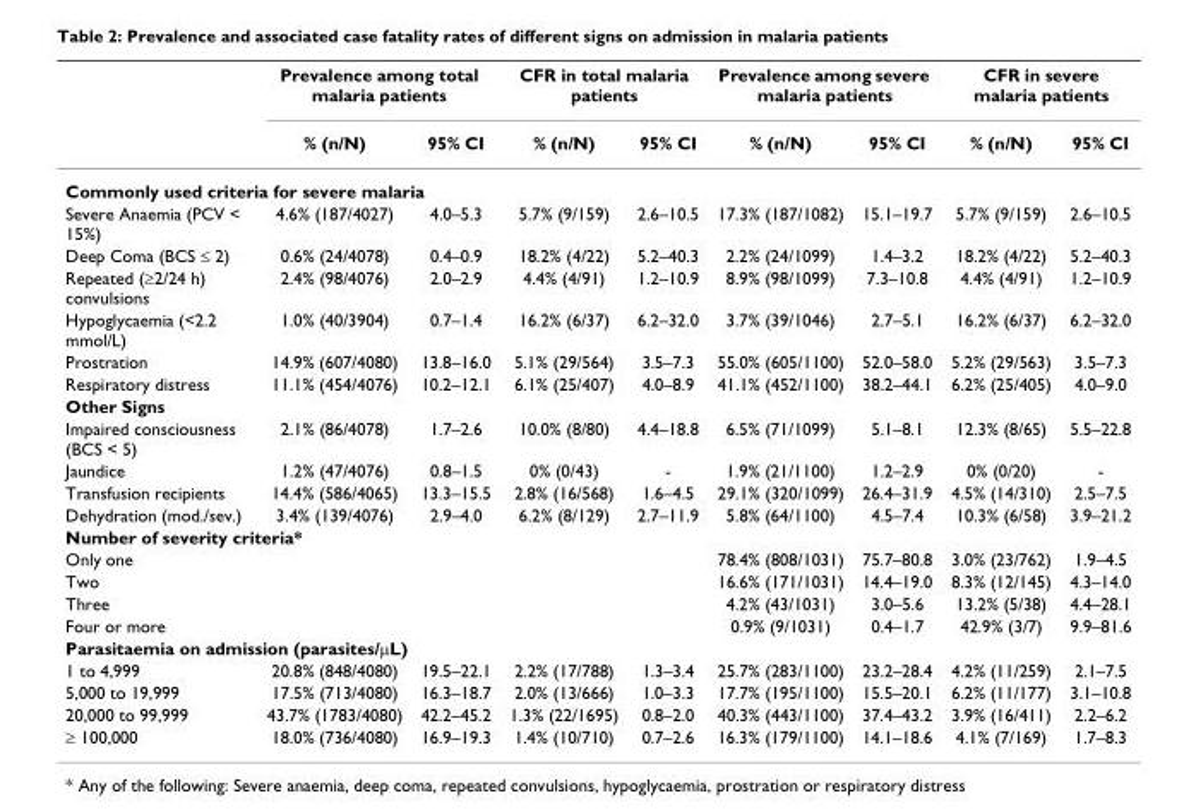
<table><thead><tr><td rowspan="2"></td><td colspan="2">Prevalence among total malaria patients</td><td colspan="2">CFR in total malaria patients</td><td colspan="2">Prevalence among severe malaria patients</td><td colspan="2">CFR in severe malaria patients</td></tr><tr><td>% (n/N)</td><td>95% CI</td><td>% (n/N)</td><td>95% CI</td><td>% (n/N)</td><td>95% CI</td><td>% (n/N)</td><td>95% CI</td></tr></thead><tbody><tr><td colspan="9">Commonly used criteria for severe malaria</td></tr><tr><td>Severe Anaemia (PCV &lt; 15%)</td><td>4.6% (187/4027)</td><td>4.0–5.3</td><td>5.7% (9/159)</td><td>2.6–10.5</td><td>17.3% (187/1082)</td><td>15.1–19.7</td><td>5.7% (9/159)</td><td>2.6–10.5</td></tr><tr><td>Deep Coma (BCS ≤ 2)</td><td>0.6% (24/4078)</td><td>0.4–0.9</td><td>18.2% (4/22)</td><td>5.2–40.3</td><td>2.2% (24/1099)</td><td>1.4–3.2</td><td>18.2% (4/22)</td><td>5.2–40.3</td></tr><tr><td>Repeated (≥2/24 h) convulsions</td><td>2.4% (98/4076)</td><td>2.0–2.9</td><td>4.4% (4/91)</td><td>1.2–10.9</td><td>8.9% (98/1099)</td><td>7.3–10.8</td><td>4.4% (4/91)</td><td>1.2–10.9</td></tr><tr><td>Hypoglycaemia (&lt;2.2 mmol/L)</td><td>1.0% (40/3904)</td><td>0.7–1.4</td><td>16.2% (6/37)</td><td>6.2–32.0</td><td>3.7% (39/1046)</td><td>2.7–5.1</td><td>16.2% (6/37)</td><td>6.2–32.0</td></tr><tr><td>Prostration</td><td>14.9% (607/4080)</td><td>13.8–16.0</td><td>5.1% (29/564)</td><td>3.5–7.3</td><td>55.0% (605/1100)</td><td>52.0–58.0</td><td>5.2% (29/563)</td><td>3.5–7.3</td></tr><tr><td>Respiratory distress</td><td>11.1% (454/4076)</td><td>10.2–12.1</td><td>6.1% (25/407)</td><td>4.0–8.9</td><td>41.1% (452/1100)</td><td>38.2–44.1</td><td>6.2% (25/405)</td><td>4.0–9.0</td></tr><tr><td colspan="9">Other Signs</td></tr><tr><td>Impaired consciousness (BCS &lt; 5)</td><td>2.1% (86/4078)</td><td>1.7–2.6</td><td>10.0% (8/80)</td><td>4.4–18.8</td><td>6.5% (71/1099)</td><td>5.1–8.1</td><td>12.3% (8/65)</td><td>5.5–22.8</td></tr><tr><td>Jaundice</td><td>1.2% (47/4076)</td><td>0.8–1.5</td><td>0% (0/43)</td><td>-</td><td>1.9% (21/1100)</td><td>1.2–2.9</td><td>0% (0/20)</td><td>-</td></tr><tr><td>Transfusion recipients</td><td>14.4% (586/4065)</td><td>13.3–15.5</td><td>2.8% (16/568)</td><td>1.6–4.5</td><td>29.1% (320/1099)</td><td>26.4–31.9</td><td>4.5% (14/310)</td><td>2.5–7.5</td></tr><tr><td>Dehydration (mod./sev.)</td><td>3.4% (139/4076)</td><td>2.9–4.0</td><td>6.2% (8/129)</td><td>2.7–11.9</td><td>5.8% (64/1100)</td><td>4.5–7.4</td><td>10.3% (6/58)</td><td>3.9–21.2</td></tr><tr><td colspan="9">Number of severity criteria*</td></tr><tr><td>Only one</td><td></td><td></td><td></td><td></td><td>78.4% (808/1031)</td><td>75.7–80.8</td><td>3.0% (23/762)</td><td>1.9–4.5</td></tr><tr><td>Two</td><td></td><td></td><td></td><td></td><td>16.6% (171/1031)</td><td>14.4–19.0</td><td>8.3% (12/145)</td><td>4.3–14.0</td></tr><tr><td>Three</td><td></td><td></td><td></td><td></td><td>4.2% (43/1031)</td><td>3.0–5.6</td><td>13.2% (5/38)</td><td>4.4–28.1</td></tr><tr><td>Four or more</td><td></td><td></td><td></td><td></td><td>0.9% (9/1031)</td><td>0.4–1.7</td><td>42.9% (3/7)</td><td>9.9–81.6</td></tr><tr><td colspan="9">Parasitaemia on admission (parasites/µL)</td></tr><tr><td>1 to 4,999</td><td>20.8% (848/4080)</td><td>19.5–22.1</td><td>2.2% (17/788)</td><td>1.3–3.4</td><td>25.7% (283/1100)</td><td>23.2–28.4</td><td>4.2% (11/259)</td><td>2.1–7.5</td></tr><tr><td>5,000 to 19,999</td><td>17.5% (713/4080)</td><td>16.3–18.7</td><td>2.0% (13/666)</td><td>1.0–3.3</td><td>17.7% (195/1100)</td><td>15.5–20.1</td><td>6.2% (11/177)</td><td>3.1–10.8</td></tr><tr><td>20,000 to 99,999</td><td>43.7% (1783/4080)</td><td>42.2–45.2</td><td>1.3% (22/1695)</td><td>0.8–2.0</td><td>40.3% (443/1100)</td><td>37.4–43.2</td><td>3.9% (16/411)</td><td>2.2–6.2</td></tr><tr><td>≥ 100,000</td><td>18.0% (736/4080)</td><td>16.9–19.3</td><td>1.4% (10/710)</td><td>0.7–2.6</td><td>16.3% (179/1100)</td><td>14.1–18.6</td><td>4.1% (7/169)</td><td>1.7–8.3</td></tr></tbody></table>